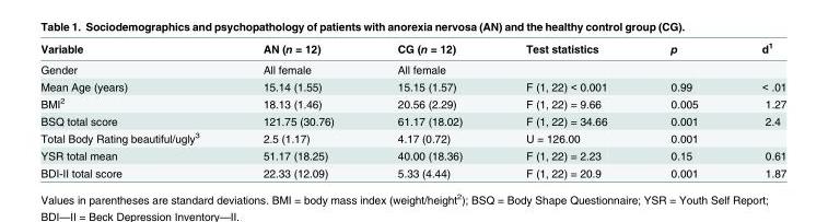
<table><thead><tr><td>Variable</td><td>AN (n = 12)</td><td>CG (n = 12)</td><td>Test statistics</td><td>p</td><td>d<sup>1</sup></td></tr></thead><tbody><tr><td>Gender</td><td>All female</td><td>All female</td><td></td><td></td><td></td></tr><tr><td>Mean Age (years)</td><td>15.14 (1.55)</td><td>15.15 (1.57)</td><td>F (1, 22) &lt; 0.001</td><td>0.99</td><td>&lt; .01</td></tr><tr><td>BMI<sup>2</sup></td><td>18.13 (1.46)</td><td>20.56 (2.29)</td><td>F (1, 22) = 9.66</td><td>0.005</td><td>1.27</td></tr><tr><td>BSQ total score</td><td>121.75 (30.76)</td><td>61.17 (18.02)</td><td>F (1, 22) = 34.66</td><td>0.001</td><td>2.4</td></tr><tr><td>Total Body Rating beautiful/ugly<sup>3</sup></td><td>2.5 (1.17)</td><td>4.17 (0.72)</td><td>U = 126.00</td><td>0.001</td><td></td></tr><tr><td>YSR total mean</td><td>51.17 (18.25)</td><td>40.00 (18.36)</td><td>F (1, 22) = 2.23</td><td>0.15</td><td>0.61</td></tr><tr><td>BDI-II total score</td><td>22.33 (12.09)</td><td>5.33 (4.44)</td><td>F (1, 22) = 20.9</td><td>0.001</td><td>1.87</td></tr></tbody></table>